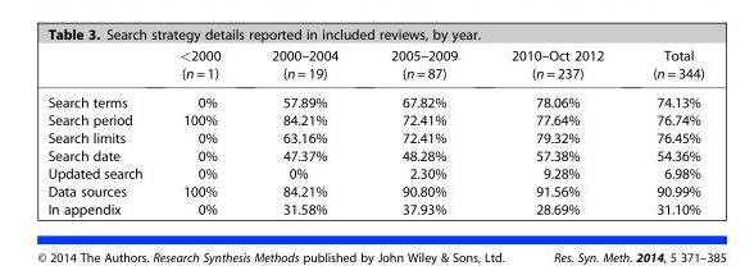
<table><thead><tr><td></td><td>&lt;2000 (n = 1)</td><td>2000–2004 (n = 19)</td><td>2005–2009 (n = 87)</td><td>2010–Oct 2012 (n = 237)</td><td>Total (n = 344)</td></tr></thead><tbody><tr><td>Search terms</td><td>0%</td><td>57.89%</td><td>67.82%</td><td>78.06%</td><td>74.13%</td></tr><tr><td>Search period</td><td>100%</td><td>84.21%</td><td>72.41%</td><td>77.64%</td><td>76.74%</td></tr><tr><td>Search limits</td><td>0%</td><td>63.16%</td><td>72.41%</td><td>79.32%</td><td>76.45%</td></tr><tr><td>Search date</td><td>0%</td><td>47.37%</td><td>48.28%</td><td>57.38%</td><td>54.36%</td></tr><tr><td>Updated search</td><td>0%</td><td>0%</td><td>2.30%</td><td>9.28%</td><td>6.98%</td></tr><tr><td>Data sources</td><td>100%</td><td>84.21%</td><td>90.80%</td><td>91.56%</td><td>90.99%</td></tr><tr><td>In appendix</td><td>0%</td><td>31.58%</td><td>37.93%</td><td>28.69%</td><td>31.10%</td></tr></tbody></table>